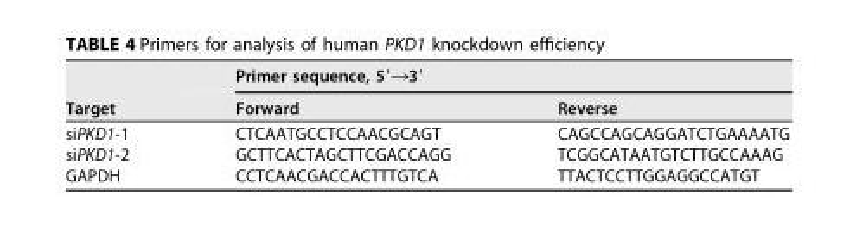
<table><thead><tr><td rowspan="2">Target</td><td colspan="2">Primer sequence, 5=¡3=</td></tr><tr><td>Forward</td><td>Reverse</td></tr></thead><tbody><tr><td>siPKD1-1</td><td>CTCAATGCCTCCAACGCAGT</td><td>CAGCCAGCAGGATCTGAAAATG</td></tr><tr><td>siPKD1-2</td><td>GCTTCACTAGCTTCGACCAGG</td><td>TCGGCATAATGTCTTGCCAAAG</td></tr><tr><td>GAPDH</td><td>CCTCAACGACCACTTTGTCA</td><td>TTACTCCTTGGAGGCCATGT</td></tr></tbody></table>